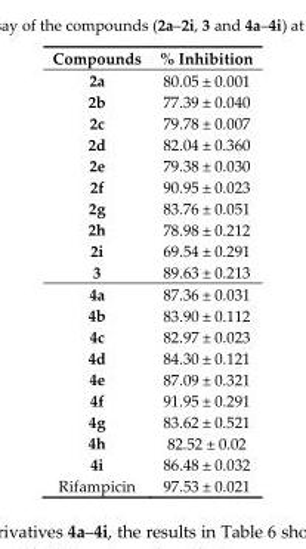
<table><thead><tr><td>Compounds</td><td>% Inhibition</td></tr></thead><tbody><tr><td>2a</td><td>80.05 ± 0.001</td></tr><tr><td>2b</td><td>77.39 ± 0.040</td></tr><tr><td>2c</td><td>79.78 ± 0.007</td></tr><tr><td>2d</td><td>82.04 ± 0.360</td></tr><tr><td>2e</td><td>79.38 ± 0.030</td></tr><tr><td>2f</td><td>90.95 ± 0.023</td></tr><tr><td>2g</td><td>83.76 ± 0.051</td></tr><tr><td>2h</td><td>78.98 ± 0.212</td></tr><tr><td>2i</td><td>69.54 ± 0.291</td></tr><tr><td>3</td><td>89.63 ± 0.213</td></tr><tr><td>4a</td><td>87.36 ± 0.031</td></tr><tr><td>4b</td><td>83.90 ± 0.112</td></tr><tr><td>4c</td><td>82.97 ± 0.023</td></tr><tr><td>4d</td><td>84.30 ± 0.121</td></tr><tr><td>4e</td><td>87.09 ± 0.321</td></tr><tr><td>4f</td><td>91.95 ± 0.291</td></tr><tr><td>4g</td><td>83.62 ± 0.521</td></tr><tr><td>4h</td><td>82.52 ± 0.02</td></tr><tr><td>4i</td><td>86.48 ± 0.032</td></tr><tr><td>Rifampicin</td><td>97.53 ± 0.021</td></tr></tbody></table>